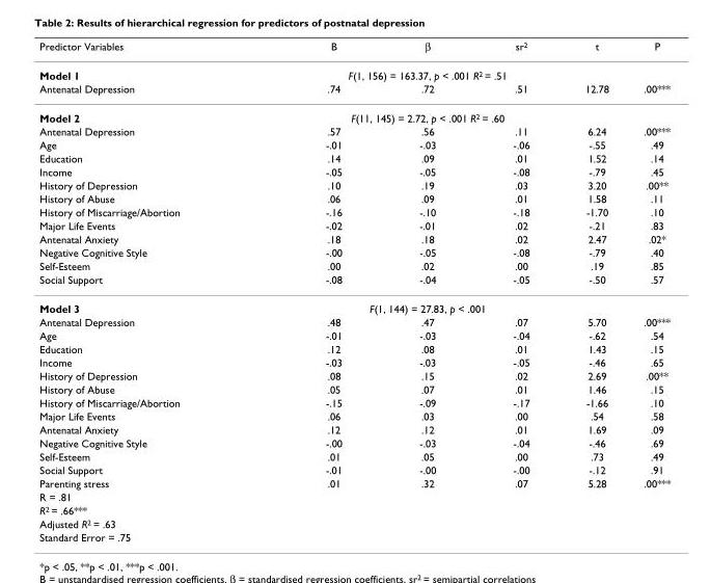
<table><thead><tr><td>Predictor Variables</td><td>B</td><td>β</td><td>sr<sup>2</sup></td><td>t</td><td>P</td></tr></thead><tbody><tr><td>Model 1</td><td colspan="3">F(1, 156) = 163.37, p &lt; .001 R<sup>2</sup> = .51</td><td></td><td></td></tr><tr><td>Antenatal Depression</td><td>.74</td><td>.72</td><td>.51</td><td>12.78</td><td>.00***</td></tr><tr><td>Model 2</td><td colspan="3">F(11, 145) = 2.72, p &lt; .001 R<sup>2</sup> = .60</td><td></td><td></td></tr><tr><td>Antenatal Depression</td><td>.57</td><td>.56</td><td>.11</td><td>6.24</td><td>.00***</td></tr><tr><td>Age</td><td>-.01</td><td>-.03</td><td>-.06</td><td>-.55</td><td>.49</td></tr><tr><td>Education</td><td>.14</td><td>.09</td><td>.01</td><td>1.52</td><td>.14</td></tr><tr><td>Income</td><td>-.05</td><td>-.05</td><td>-.08</td><td>-.79</td><td>.45</td></tr><tr><td>History of Depression</td><td>.10</td><td>.19</td><td>.03</td><td>3.20</td><td>.00**</td></tr><tr><td>History of Abuse</td><td>.06</td><td>.09</td><td>.01</td><td>1.58</td><td>.11</td></tr><tr><td>History of Miscarriage/Abortion</td><td>-.16</td><td>-.10</td><td>-.18</td><td>-1.70</td><td>.10</td></tr><tr><td>Major Life Events</td><td>-.02</td><td>-.01</td><td>.02</td><td>-.21</td><td>.83</td></tr><tr><td>Antenatal Anxiety</td><td>.18</td><td>.18</td><td>.02</td><td>2.47</td><td>.02*</td></tr><tr><td>Negative Cognitive Style</td><td>-.00</td><td>-.05</td><td>-.08</td><td>-.79</td><td>.40</td></tr><tr><td>Self-Esteem</td><td>.00</td><td>.02</td><td>.00</td><td>.19</td><td>.85</td></tr><tr><td>Social Support</td><td>-.08</td><td>-.04</td><td>-.05</td><td>-.50</td><td>.57</td></tr><tr><td>Model 3</td><td colspan="3">F(1, 144) = 27.83, p &lt; .001</td><td></td><td></td></tr><tr><td>Antenatal Depression</td><td>.48</td><td>.47</td><td>.07</td><td>5.70</td><td>.00***</td></tr><tr><td>Age</td><td>-.01</td><td>-.03</td><td>-.04</td><td>-.62</td><td>.54</td></tr><tr><td>Education</td><td>.12</td><td>.08</td><td>.01</td><td>1.43</td><td>.15</td></tr><tr><td>Income</td><td>-.03</td><td>-.03</td><td>-.05</td><td>-.46</td><td>.65</td></tr><tr><td>History of Depression</td><td>.08</td><td>.15</td><td>.02</td><td>2.69</td><td>.00**</td></tr><tr><td>History of Abuse</td><td>.05</td><td>.07</td><td>.01</td><td>1.46</td><td>.15</td></tr><tr><td>History of Miscarriage/Abortion</td><td>-.15</td><td>-.09</td><td>-.17</td><td>-1.66</td><td>.10</td></tr><tr><td>Major Life Events</td><td>.06</td><td>.03</td><td>.00</td><td>.54</td><td>.58</td></tr><tr><td>Antenatal Anxiety</td><td>.12</td><td>.12</td><td>.01</td><td>1.69</td><td>.09</td></tr><tr><td>Negative Cognitive Style</td><td>-.00</td><td>-.03</td><td>-.04</td><td>-.46</td><td>.69</td></tr><tr><td>Self-Esteem</td><td>.01</td><td>.05</td><td>.00</td><td>.73</td><td>.49</td></tr><tr><td>Social Support</td><td>-.01</td><td>-.00</td><td>-.00</td><td>-.12</td><td>.91</td></tr><tr><td>Parenting stress</td><td>.01</td><td>.32</td><td>.07</td><td>5.28</td><td>.00***</td></tr><tr><td colspan="6">R = .81</td></tr><tr><td colspan="6">R<sup>2</sup> = .66***</td></tr><tr><td colspan="6">Adjusted R<sup>2</sup> = .63</td></tr><tr><td>Standard Error = .75</td><td></td><td></td><td></td><td></td><td></td></tr></tbody></table>